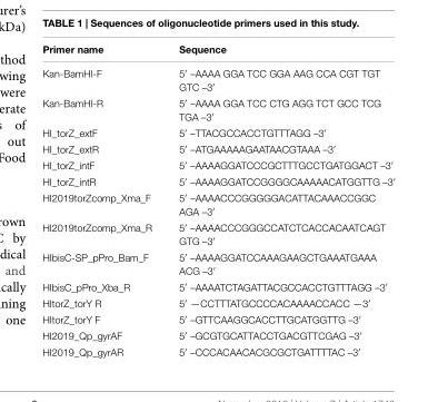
<table><thead><tr><td>Primer name</td><td>Sequence</td></tr></thead><tbody><tr><td>Kan-BamHI-F</td><td>5′ –AAAA GGA TCC GGA AAG CCA CGT TGT GTC –3′</td></tr><tr><td>Kan-BamHI-R</td><td>5′ –AAAA GGA TCC CTG AGG TCT GCC TCG TGA –3′</td></tr><tr><td>HI_torZ_extF</td><td>5′ –TTACGCCACCTGTTTAGG –3′</td></tr><tr><td>HI_torZ_extR</td><td>5′ –ATGAAAAAGAATAACGTAAA –3′</td></tr><tr><td>HI_torZ_intF</td><td>5′ –AAAAGGATCCCGCTTTGCCTGATGGACT –3′</td></tr><tr><td>HI_torZ_intR</td><td>5′ –AAAAGGATCCGGGGCAAAAACATGGTTG –3′</td></tr><tr><td>HI2019torZcomp_Xma_F</td><td>5′ –AAAACCCGGGGGACATTACAAACCGGC AGA –3′</td></tr><tr><td>HI2019torZcomp_Xma_R</td><td>5′ –AAAACCCGGGCCATCTCACCACAATCAGT GTG –3′</td></tr><tr><td>HIbisC-SP_pPro_Bam_F</td><td>5′ –AAAAGGATCCAAAGAAGCTGAAATGAAA ACG –3′</td></tr><tr><td>HIbisC_pPro_Xba_R</td><td>5′ –AAAATCTAGATTACGCCACCTGTTTAGG –3′</td></tr><tr><td>HItorZ_torY R</td><td>5′ —CCTTTATGCCCCACAAAACCACC —3′</td></tr><tr><td>HItorZ_torY F</td><td>5′ –GTTCAAGGCACCTTGCATGGTTG –3′</td></tr><tr><td>HI2019_Qp_gyrAF</td><td>5′ –GCGTGCATTACCTGACGTTCGAG –3′</td></tr><tr><td>HI2019_Qp_gyrAR</td><td>5′ –CCCACAACACGCGCTGATTTTAC –3′</td></tr></tbody></table>